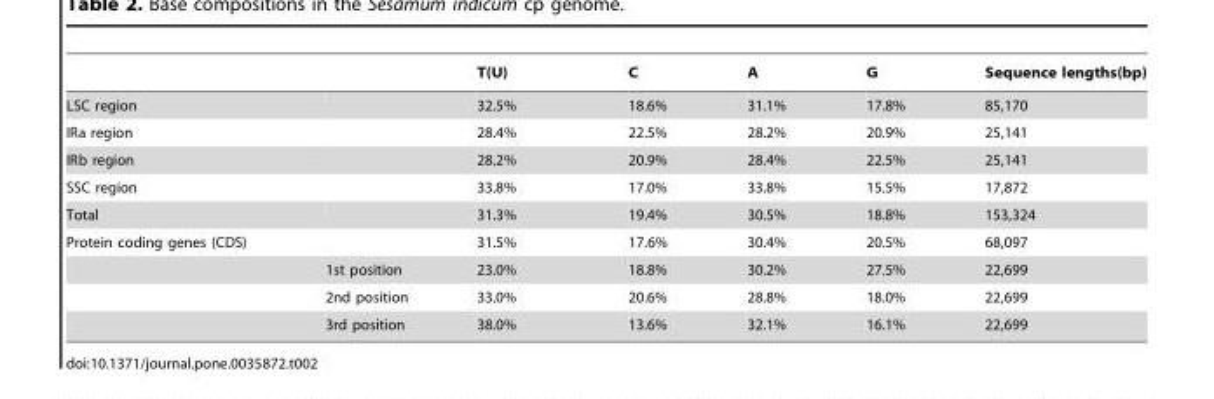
<table><thead><tr><td></td><td></td><td>T(U)</td><td>C</td><td>A</td><td>G</td><td>Sequence lengths(bp)</td></tr></thead><tbody><tr><td>LSC region</td><td></td><td>32.5%</td><td>18.6%</td><td>31.1%</td><td>17.8%</td><td>85,170</td></tr><tr><td>IRa region</td><td></td><td>28.4%</td><td>22.5%</td><td>28.2%</td><td>20.9%</td><td>25,141</td></tr><tr><td>IRb region</td><td></td><td>28.2%</td><td>20.9%</td><td>28.4%</td><td>22.5%</td><td>25,141</td></tr><tr><td>SSC region</td><td></td><td>33.8%</td><td>17.0%</td><td>33.8%</td><td>15.5%</td><td>17,872</td></tr><tr><td>Total</td><td></td><td>31.3%</td><td>19.4%</td><td>30.5%</td><td>18.8%</td><td>153,324</td></tr><tr><td rowspan="4">Protein coding genes (CDS)</td><td></td><td>31.5%</td><td>17.6%</td><td>30.4%</td><td>20.5%</td><td>68,097</td></tr><tr><td>1st position</td><td>23.0%</td><td>18.8%</td><td>30.2%</td><td>27.5%</td><td>22,699</td></tr><tr><td>2nd position</td><td>33.0%</td><td>20.6%</td><td>28.8%</td><td>18.0%</td><td>22,699</td></tr><tr><td>3rd position</td><td>38.0%</td><td>13.6%</td><td>32.1%</td><td>16.1%</td><td>22,699</td></tr></tbody></table>